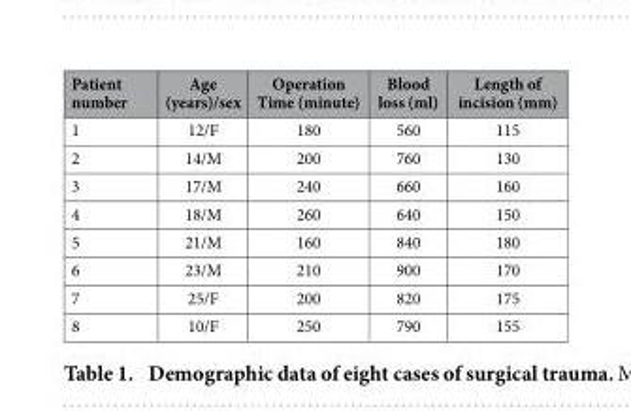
<table><thead><tr><td>Patient number</td><td>Age (years)/sex</td><td>Operation Time (minute)</td><td>Blood loss (ml)</td><td>Length of incision (mm)</td></tr></thead><tbody><tr><td>1</td><td>12/F</td><td>180</td><td>560</td><td>115</td></tr><tr><td>2</td><td>14/M</td><td>200</td><td>760</td><td>130</td></tr><tr><td>3</td><td>17/M</td><td>240</td><td>660</td><td>160</td></tr><tr><td>4</td><td>18/M</td><td>260</td><td>640</td><td>150</td></tr><tr><td>5</td><td>21/M</td><td>160</td><td>840</td><td>180</td></tr><tr><td>6</td><td>23/M</td><td>210</td><td>900</td><td>170</td></tr><tr><td>7</td><td>25/F</td><td>200</td><td>820</td><td>175</td></tr><tr><td>8</td><td>10/F</td><td>250</td><td>790</td><td>155</td></tr></tbody></table>